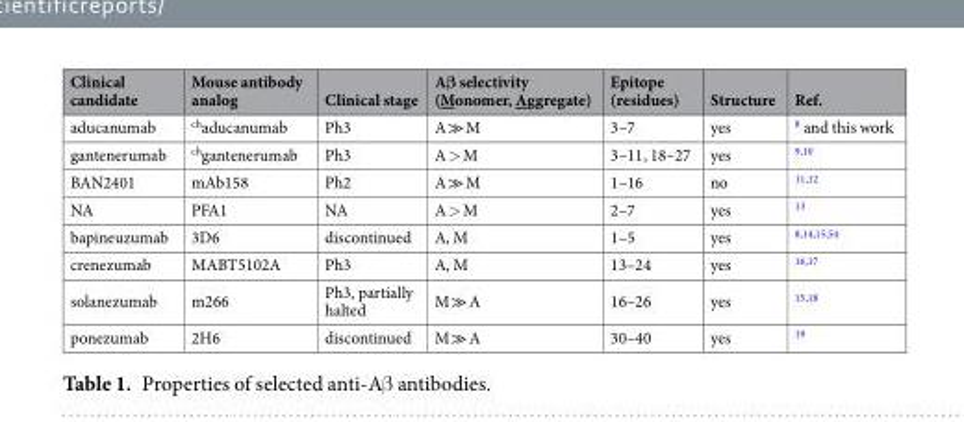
<table><thead><tr><td>Clinical candidate</td><td>Mouse antibody analog</td><td>Clinical stage</td><td>Aβ selectivity (Monomer, Aggregate)</td><td>Epitope (residues)</td><td>Structure</td><td>Ref.</td></tr></thead><tbody><tr><td>aducanumab</td><td><sup>ch</sup>aducanumab</td><td>Ph3</td><td>A ≫ M</td><td>3–7</td><td>yes</td><td><sup>8</sup> and this work</td></tr><tr><td>gantenerumab</td><td><sup>ch</sup>gantenerumab</td><td>Ph3</td><td>A &gt; M</td><td>3–11, 18–27</td><td>yes</td><td><sup>9,10</sup></td></tr><tr><td>BAN2401</td><td>mAb158</td><td>Ph2</td><td>A ≫ M</td><td>1–16</td><td>no</td><td><sup>11,12</sup></td></tr><tr><td>NA</td><td>PFA1</td><td>NA</td><td>A &gt; M</td><td>2–7</td><td>yes</td><td><sup>13</sup></td></tr><tr><td>bapineuzumab</td><td>3D6</td><td>discontinued</td><td>A, M</td><td>1–5</td><td>yes</td><td><sup>8,14,15,54</sup></td></tr><tr><td>crenezumab</td><td>MABT5102A</td><td>Ph3</td><td>A, M</td><td>13–24</td><td>yes</td><td><sup>16,17</sup></td></tr><tr><td>solanezumab</td><td>m266</td><td>Ph3, partially halted</td><td>M ≫ A</td><td>16–26</td><td>yes</td><td><sup>15,18</sup></td></tr><tr><td>ponezumab</td><td>2H6</td><td>discontinued</td><td>M ≫ A</td><td>30–40</td><td>yes</td><td><sup>19</sup></td></tr></tbody></table>